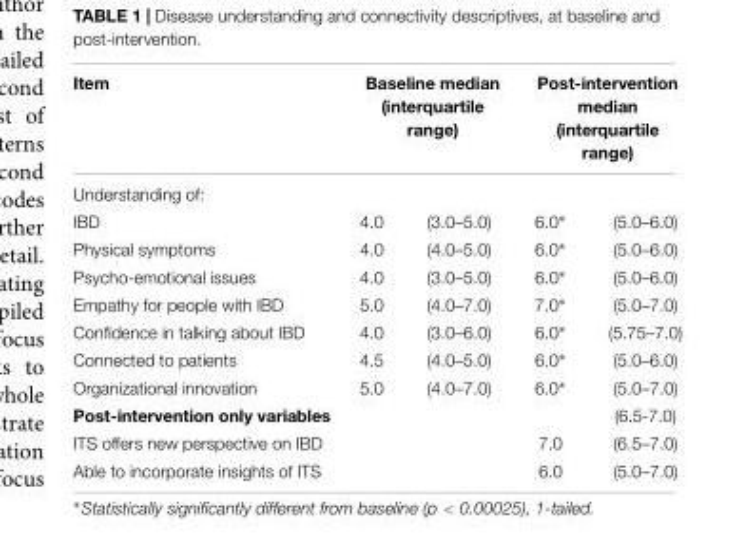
<table><thead><tr><td rowspan="2">Item Understanding of:</td><td colspan="2">Baseline median (interquartile range)</td><td colspan="2">Post-intervention median (interquartile range)</td></tr><tr><td></td><td></td><td></td><td></td></tr></thead><tbody><tr><td>IBD</td><td>4.0</td><td>(3.0–5.0)</td><td>6.0∗</td><td>(5.0–6.0)</td></tr><tr><td>Physical symptoms</td><td>4.0</td><td>(4.0–5.0)</td><td>6.0∗</td><td>(5.0–6.0)</td></tr><tr><td>Psycho-emotional issues</td><td>4.0</td><td>(3.0–5.0)</td><td>6.0∗</td><td>(5.0–6.0)</td></tr><tr><td>Empathy for people with IBD</td><td>5.0</td><td>(4.0–7.0)</td><td>7.0∗</td><td>(5.0–7.0)</td></tr><tr><td>Confidence in talking about IBD</td><td>4.0</td><td>(3.0–6.0)</td><td>6.0∗</td><td>(5.75–7.0)</td></tr><tr><td>Connected to patients</td><td>4.5</td><td>(4.0–5.0)</td><td>6.0∗</td><td>(5.0–6.0)</td></tr><tr><td>Organizational innovation</td><td>5.0</td><td>(4.0–7.0)</td><td>6.0∗</td><td>(5.0–7.0)</td></tr><tr><td>Post-intervention only variables</td><td></td><td></td><td></td><td>(6.5-7.0)</td></tr><tr><td>ITS offers new perspective on IBD</td><td></td><td></td><td>7.0</td><td>(6.5–7.0)</td></tr><tr><td>Able to incorporate insights of ITS</td><td></td><td></td><td>6.0</td><td>(5.0–7.0)</td></tr></tbody></table>